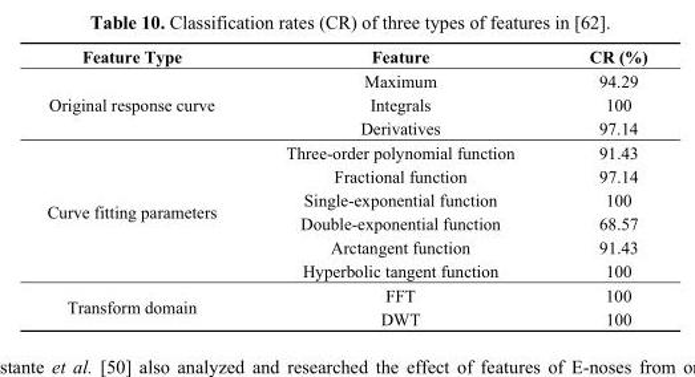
<table><thead><tr><td>Feature Type</td><td>Feature</td><td>CR (%)</td></tr></thead><tbody><tr><td rowspan="3">Original response curve</td><td>Maximum</td><td>94.29</td></tr><tr><td>Integrals</td><td>100</td></tr><tr><td>Derivatives</td><td>97.14</td></tr><tr><td rowspan="6">Curve fitting parameters</td><td>Three-order polynomial function</td><td>91.43</td></tr><tr><td>Fractional function</td><td>97.14</td></tr><tr><td>Single-exponential function</td><td>100</td></tr><tr><td>Double-exponential function</td><td>68.57</td></tr><tr><td>Arctangent function</td><td>91.43</td></tr><tr><td>Hyperbolic tangent function</td><td>100</td></tr><tr><td rowspan="2">Transform domain</td><td>FFT</td><td>100</td></tr><tr><td>DWT</td><td>100</td></tr></tbody></table>